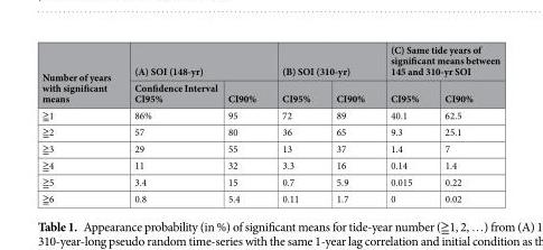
<table><thead><tr><td rowspan="2">Number of years with significant means</td><td colspan="2">(A) SOI (148-yr)</td><td colspan="2">(B) SOI (310-yr)</td><td colspan="2">(C) Same tide years of significant means between 145 and 310-yr SOI</td></tr><tr><td>Confidence Interval CI95%</td><td>CI90%</td><td>CI95%</td><td>CI90%</td><td>CI95%</td><td>CI90%</td></tr></thead><tbody><tr><td>≧1</td><td>86%</td><td>95</td><td>72</td><td>89</td><td>40.1</td><td>62.5</td></tr><tr><td>≧2</td><td>57</td><td>80</td><td>36</td><td>65</td><td>9.3</td><td>25.1</td></tr><tr><td>≧3</td><td>29</td><td>55</td><td>13</td><td>37</td><td>1.4</td><td>7</td></tr><tr><td>≧4</td><td>11</td><td>32</td><td>3.3</td><td>16</td><td>0.14</td><td>1.4</td></tr><tr><td>≧5</td><td>3.4</td><td>15</td><td>0.7</td><td>5.9</td><td>0.015</td><td>0.22</td></tr><tr><td>≧6</td><td>0.8</td><td>5.4</td><td>0.11</td><td>1.7</td><td>0</td><td>0.02</td></tr></tbody></table>